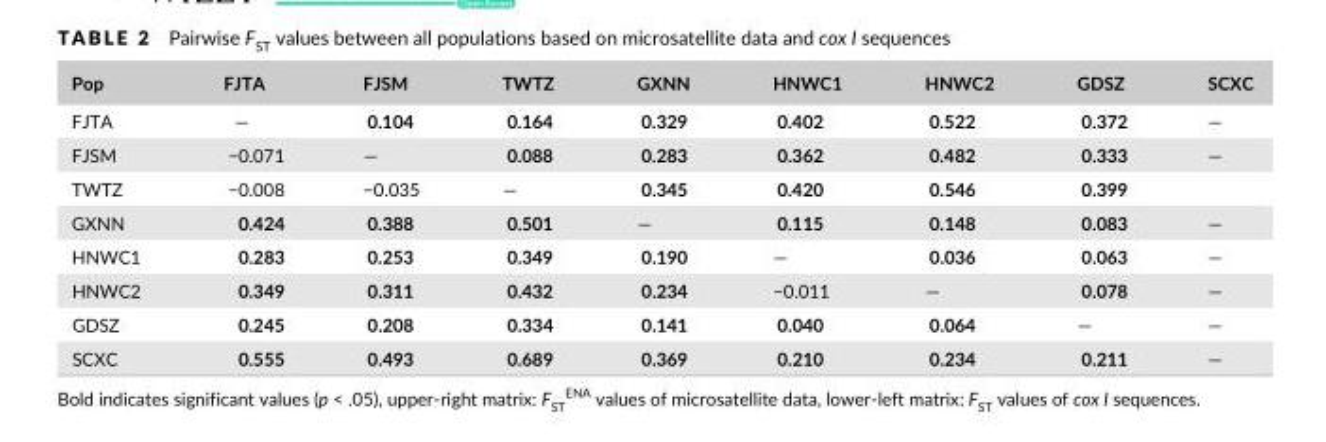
<table><thead><tr><td>Pop</td><td>FJTA</td><td>FJSM</td><td>TWTZ</td><td>GXNN</td><td>HNWC1</td><td>HNWC2</td><td>GDSZ</td><td>SCXC</td></tr></thead><tbody><tr><td>FJTA</td><td>—</td><td>0.104</td><td>0.164</td><td>0.329</td><td>0.402</td><td>0.522</td><td>0.372</td><td>—</td></tr><tr><td>FJSM</td><td>−0.071</td><td>—</td><td>0.088</td><td>0.283</td><td>0.362</td><td>0.482</td><td>0.333</td><td>—</td></tr><tr><td>TWTZ</td><td>−0.008</td><td>−0.035</td><td>—</td><td>0.345</td><td>0.420</td><td>0.546</td><td>0.399</td><td></td></tr><tr><td>GXNN</td><td>0.424</td><td>0.388</td><td>0.501</td><td>—</td><td>0.115</td><td>0.148</td><td>0.083</td><td>—</td></tr><tr><td>HNWC1</td><td>0.283</td><td>0.253</td><td>0.349</td><td>0.190</td><td>—</td><td>0.036</td><td>0.063</td><td>—</td></tr><tr><td>HNWC2</td><td>0.349</td><td>0.311</td><td>0.432</td><td>0.234</td><td>−0.011</td><td>—</td><td>0.078</td><td>—</td></tr><tr><td>GDSZ</td><td>0.245</td><td>0.208</td><td>0.334</td><td>0.141</td><td>0.040</td><td>0.064</td><td>—</td><td>—</td></tr><tr><td>SCXC</td><td>0.555</td><td>0.493</td><td>0.689</td><td>0.369</td><td>0.210</td><td>0.234</td><td>0.211</td><td>—</td></tr></tbody></table>